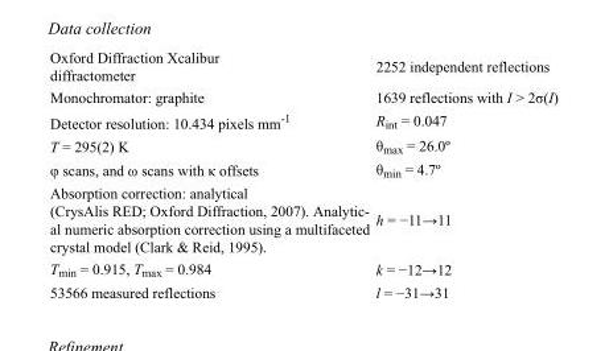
<table><tbody><tr><td>Oxford Diffraction Xcalibur diffractometer</td><td>2252 independent reflections</td></tr><tr><td>Monochromator: graphite</td><td>1639 reflections with I &gt; 2σ(I)</td></tr><tr><td>Detector resolution: 10.434 pixels mm<sup>-1</sup></td><td>R<sub>int</sub> = 0.047</td></tr><tr><td>T = 295(2) K</td><td>θ<sub>max</sub> = 26.0º</td></tr><tr><td>φ scans, and ω scans with κ offsets</td><td>θ<sub>min</sub> = 4.7º</td></tr><tr><td>Absorption correction: analytical (CrysAlis RED; Oxford Diffraction, 2007). Analytic- al numeric absorption correction using a multifaceted crystal model (Clark &amp; Reid, 1995).</td><td>h = −11→11</td></tr><tr><td>T<sub>min</sub> = 0.915, T<sub>max</sub> = 0.984</td><td>k = −12→12</td></tr><tr><td>53566 measured reflections</td><td>l = −31→31</td></tr></tbody></table>